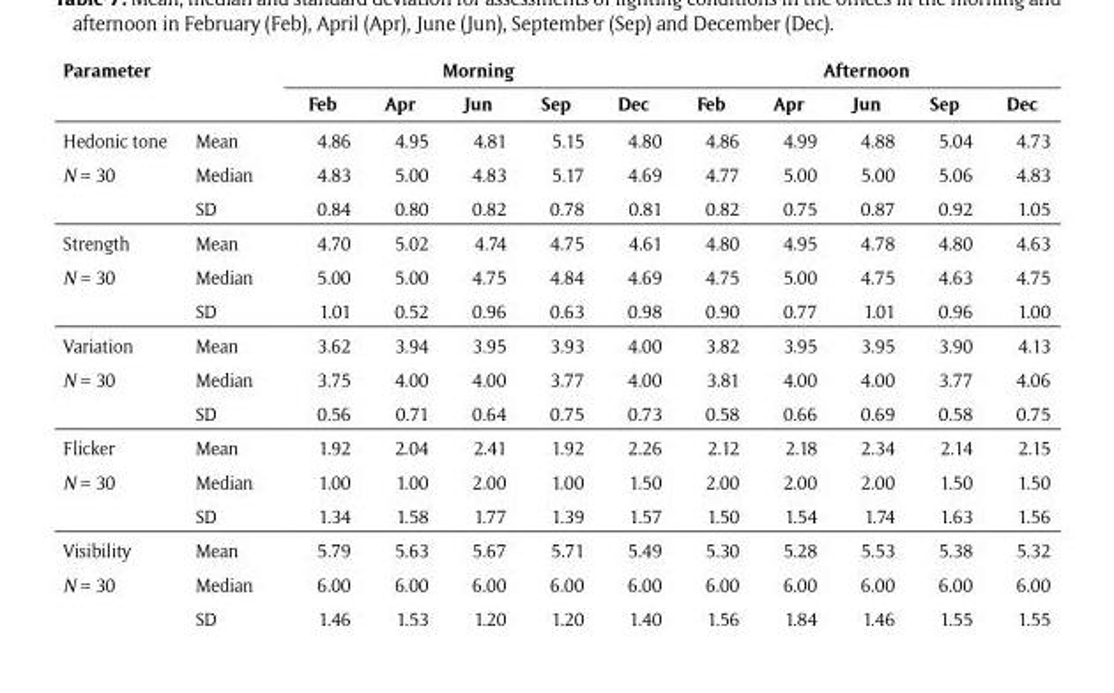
<table><thead><tr><td rowspan="2">Parameter</td><td rowspan="2"></td><td colspan="5">Morning</td><td colspan="5">Afternoon</td></tr><tr><td>Feb</td><td>Apr</td><td>Jun</td><td>Sep</td><td>Dec</td><td>Feb</td><td>Apr</td><td>Jun</td><td>Sep</td><td>Dec</td></tr></thead><tbody><tr><td>Hedonic tone</td><td>Mean</td><td>4.86</td><td>4.95</td><td>4.81</td><td>5.15</td><td>4.80</td><td>4.86</td><td>4.99</td><td>4.88</td><td>5.04</td><td>4.73</td></tr><tr><td rowspan="2">N = 30</td><td>Median</td><td>4.83</td><td>5.00</td><td>4.83</td><td>5.17</td><td>4.69</td><td>4.77</td><td>5.00</td><td>5.00</td><td>5.06</td><td>4.83</td></tr><tr><td>SD</td><td>0.84</td><td>0.80</td><td>0.82</td><td>0.78</td><td>0.81</td><td>0.82</td><td>0.75</td><td>0.87</td><td>0.92</td><td>1.05</td></tr><tr><td>Strength</td><td>Mean</td><td>4.70</td><td>5.02</td><td>4.74</td><td>4.75</td><td>4.61</td><td>4.80</td><td>4.95</td><td>4.78</td><td>4.80</td><td>4.63</td></tr><tr><td rowspan="2">N = 30</td><td>Median</td><td>5.00</td><td>5.00</td><td>4.75</td><td>4.84</td><td>4.69</td><td>4.75</td><td>5.00</td><td>4.75</td><td>4.63</td><td>4.75</td></tr><tr><td>SD</td><td>1.01</td><td>0.52</td><td>0.96</td><td>0.63</td><td>0.98</td><td>0.90</td><td>0.77</td><td>1.01</td><td>0.96</td><td>1.00</td></tr><tr><td>Variation</td><td>Mean</td><td>3.62</td><td>3.94</td><td>3.95</td><td>3.93</td><td>4.00</td><td>3.82</td><td>3.95</td><td>3.95</td><td>3.90</td><td>4.13</td></tr><tr><td rowspan="2">N = 30</td><td>Median</td><td>3.75</td><td>4.00</td><td>4.00</td><td>3.77</td><td>4.00</td><td>3.81</td><td>4.00</td><td>4.00</td><td>3.77</td><td>4.06</td></tr><tr><td>SD</td><td>0.56</td><td>0.71</td><td>0.64</td><td>0.75</td><td>0.73</td><td>0.58</td><td>0.66</td><td>0.69</td><td>0.58</td><td>0.75</td></tr><tr><td>Flicker</td><td>Mean</td><td>1.92</td><td>2.04</td><td>2.41</td><td>1.92</td><td>2.26</td><td>2.12</td><td>2.18</td><td>2.34</td><td>2.14</td><td>2.15</td></tr><tr><td rowspan="2">N = 30</td><td>Median</td><td>1.00</td><td>1.00</td><td>2.00</td><td>1.00</td><td>1.50</td><td>2.00</td><td>2.00</td><td>2.00</td><td>1.50</td><td>1.50</td></tr><tr><td>SD</td><td>1.34</td><td>1.58</td><td>1.77</td><td>1.39</td><td>1.57</td><td>1.50</td><td>1.54</td><td>1.74</td><td>1.63</td><td>1.56</td></tr><tr><td>Visibility</td><td>Mean</td><td>5.79</td><td>5.63</td><td>5.67</td><td>5.71</td><td>5.49</td><td>5.30</td><td>5.28</td><td>5.53</td><td>5.38</td><td>5.32</td></tr><tr><td rowspan="2">N = 30</td><td>Median</td><td>6.00</td><td>6.00</td><td>6.00</td><td>6.00</td><td>6.00</td><td>6.00</td><td>6.00</td><td>6.00</td><td>6.00</td><td>6.00</td></tr><tr><td>SD</td><td>1.46</td><td>1.53</td><td>1.20</td><td>1.20</td><td>1.40</td><td>1.56</td><td>1.84</td><td>1.46</td><td>1.55</td><td>1.55</td></tr></tbody></table>